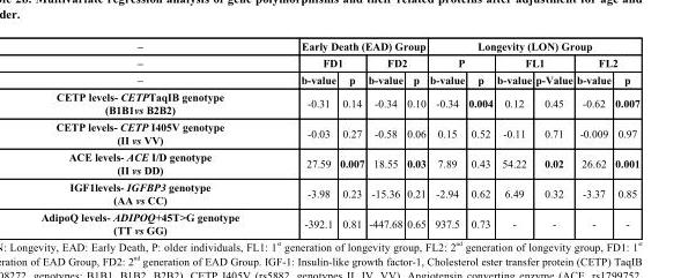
<table><thead><tr><td rowspan="3">– – –</td><td colspan="4">Early Death (EAD) Group</td><td colspan="6">Longevity (LON) Group</td></tr><tr><td colspan="2">FD1</td><td colspan="2">FD2</td><td colspan="2">P</td><td colspan="2">FL1</td><td colspan="2">FL2</td></tr><tr><td>b-value</td><td>p</td><td>b-value</td><td>p</td><td>b-value</td><td>p</td><td>b-value</td><td>p-Value</td><td>b-value</td><td>p</td></tr></thead><tbody><tr><td>CETP levels- CETPTaqIB genotype (B1B1vs B2B2)</td><td>-0.31</td><td>0.14</td><td>-0.34</td><td>0.10</td><td>-0.34</td><td>0.004</td><td>0.12</td><td>0.45</td><td>-0.62</td><td>0.007</td></tr><tr><td>CETP levels- CETP I405V genotype (II vs VV)</td><td>-0.03</td><td>0.27</td><td>-0.58</td><td>0.06</td><td>0.15</td><td>0.52</td><td>-0.11</td><td>0.71</td><td>-0.009</td><td>0.97</td></tr><tr><td>ACE levels- ACE I/D genotype (II vs DD)</td><td>27.59</td><td>0.007</td><td>18.55</td><td>0.03</td><td>7.89</td><td>0.43</td><td>54.22</td><td>0.02</td><td>26.62</td><td>0.001</td></tr><tr><td>IGF1levels- IGFBP3 genotype (AA vs CC)</td><td>-3.98</td><td>0.23</td><td>-15.36</td><td>0.21</td><td>-2.94</td><td>0.62</td><td>6.49</td><td>0.32</td><td>-3.37</td><td>0.85</td></tr><tr><td>AdipoQ levels- ADIPOQ+45T&gt;G genotype (TT vs GG)</td><td>-392.1</td><td>0.81</td><td>-447.68</td><td>0.65</td><td>937.5</td><td>0.73</td><td>-</td><td>-</td><td>-</td><td>-</td></tr></tbody></table>